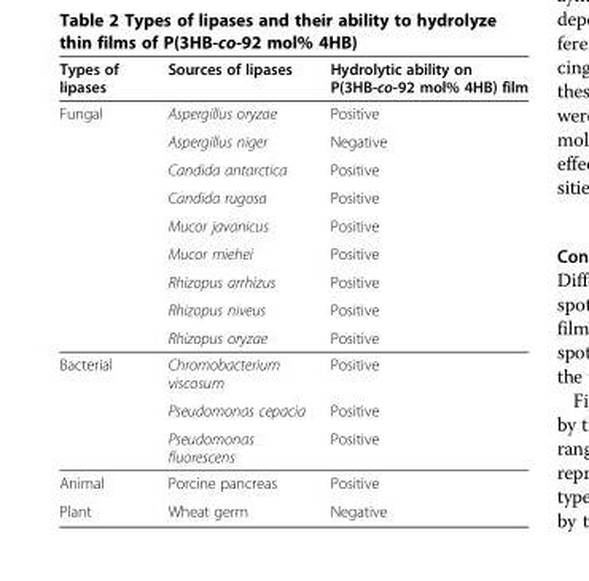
<table><thead><tr><td>Types of lipases</td><td>Sources of lipases</td><td>Hydrolytic ability on P(3HB-co-92 mol% 4HB) film</td></tr></thead><tbody><tr><td rowspan="9">Fungal</td><td>Aspergillus oryzae</td><td>Positive</td></tr><tr><td>Aspergillus niger</td><td>Negative</td></tr><tr><td>Candida antarctica</td><td>Positive</td></tr><tr><td>Candida rugosa</td><td>Positive</td></tr><tr><td>Mucor javanicus</td><td>Positive</td></tr><tr><td>Mucor miehei</td><td>Positive</td></tr><tr><td>Rhizopus arrhizus</td><td>Positive</td></tr><tr><td>Rhizopus niveus</td><td>Positive</td></tr><tr><td>Rhizopus oryzae</td><td>Positive</td></tr><tr><td rowspan="3">Bacterial</td><td>Chromobacterium viscosum</td><td>Positive</td></tr><tr><td>Pseudomonas cepacia</td><td>Positive</td></tr><tr><td>Pseudomonas fluorescens</td><td>Positive</td></tr><tr><td>Animal</td><td>Porcine pancreas</td><td>Positive</td></tr><tr><td>Plant</td><td>Wheat germ</td><td>Negative</td></tr></tbody></table>